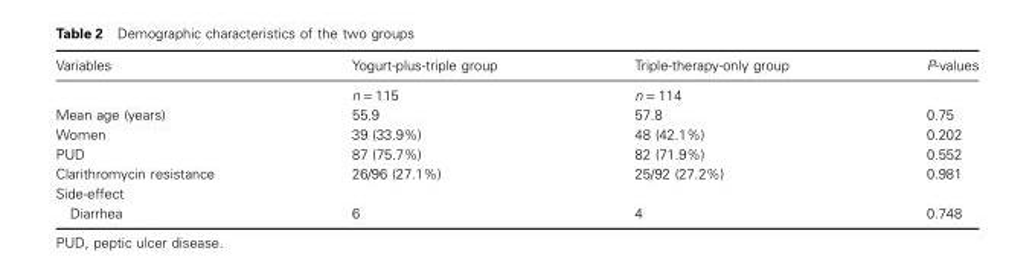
<table><thead><tr><td>Variables</td><td>Yogurt-plus-triple group</td><td>Triple-therapy-only group</td><td>P-values</td></tr></thead><tbody><tr><td></td><td>n = 115</td><td>n = 114</td><td></td></tr><tr><td>Mean age (years)</td><td>55.9</td><td>57.8</td><td>0.75</td></tr><tr><td>Women</td><td>39 (33.9%)</td><td>48 (42.1%)</td><td>0.202</td></tr><tr><td>PUD</td><td>87 (75.7%)</td><td>82 (71.9%)</td><td>0.552</td></tr><tr><td>Clarithromycin resistance</td><td>26/96 (27.1%)</td><td>25/92 (27.2%)</td><td>0.981</td></tr><tr><td colspan="4">Side-effect</td></tr><tr><td>Diarrhea</td><td>6</td><td>4</td><td>0.748</td></tr></tbody></table>